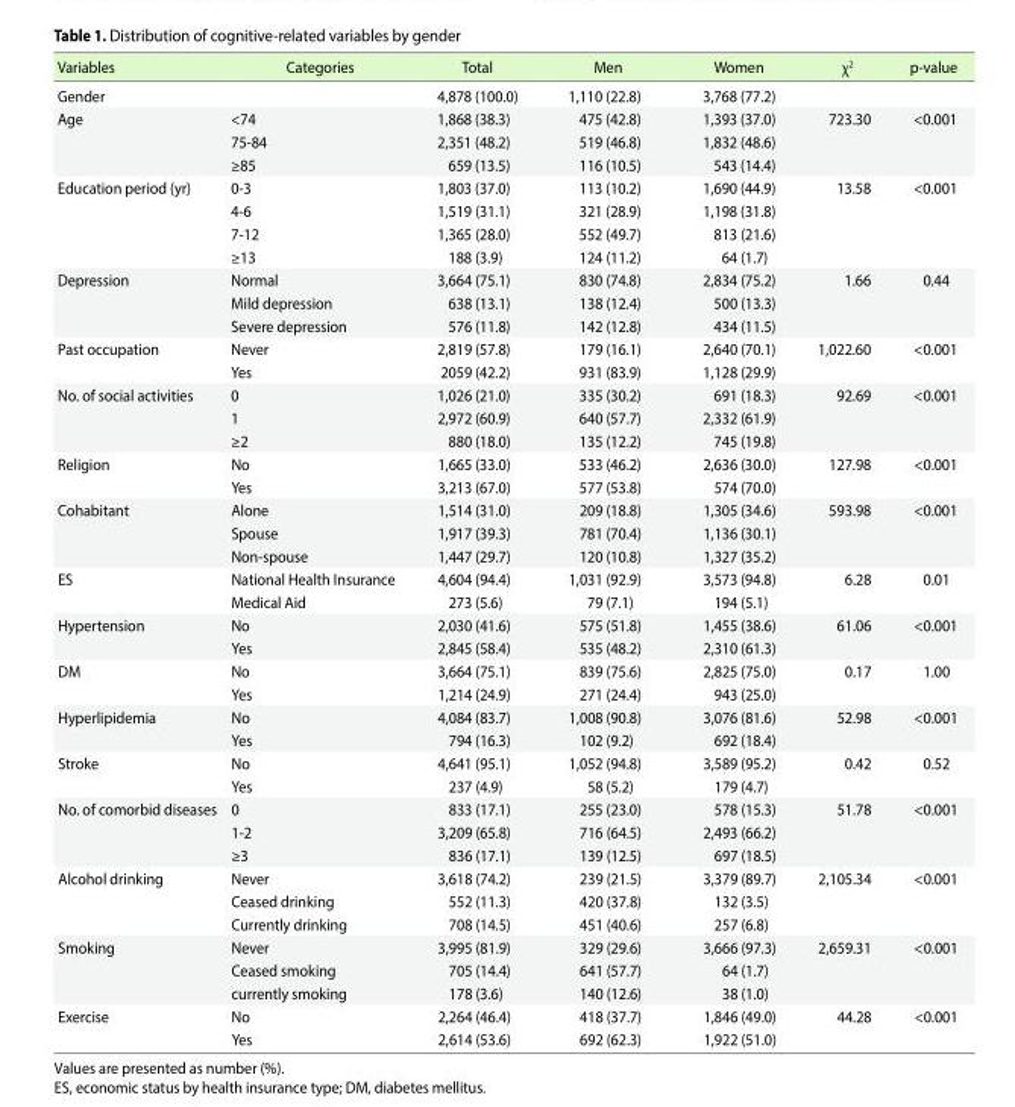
<table><thead><tr><td>Variables</td><td>Categories</td><td>Total</td><td>Men</td><td>Women</td><td>χ<sup>2</sup></td><td>p-value</td></tr></thead><tbody><tr><td>Gender</td><td></td><td>4,878 (100.0)</td><td>1,110 (22.8)</td><td>3,768 (77.2)</td><td></td><td></td></tr><tr><td rowspan="3">Age</td><td>&lt;74</td><td>1,868 (38.3)</td><td>475 (42.8)</td><td>1,393 (37.0)</td><td>723.30</td><td>&lt;0.001</td></tr><tr><td>75-84</td><td>2,351 (48.2)</td><td>519 (46.8)</td><td>1,832 (48.6)</td><td></td><td></td></tr><tr><td>≥85</td><td>659 (13.5)</td><td>116 (10.5)</td><td>543 (14.4)</td><td></td><td></td></tr><tr><td rowspan="4">Education period (yr)</td><td>0-3</td><td>1,803 (37.0)</td><td>113 (10.2)</td><td>1,690 (44.9)</td><td>13.58</td><td>&lt;0.001</td></tr><tr><td>4-6</td><td>1,519 (31.1)</td><td>321 (28.9)</td><td>1,198 (31.8)</td><td></td><td></td></tr><tr><td>7-12</td><td>1,365 (28.0)</td><td>552 (49.7)</td><td>813 (21.6)</td><td></td><td></td></tr><tr><td>≥13</td><td>188 (3.9)</td><td>124 (11.2)</td><td>64 (1.7)</td><td></td><td></td></tr><tr><td rowspan="3">Depression</td><td>Normal</td><td>3,664 (75.1)</td><td>830 (74.8)</td><td>2,834 (75.2)</td><td>1.66</td><td>0.44</td></tr><tr><td>Mild depression</td><td>638 (13.1)</td><td>138 (12.4)</td><td>500 (13.3)</td><td></td><td></td></tr><tr><td>Severe depression</td><td>576 (11.8)</td><td>142 (12.8)</td><td>434 (11.5)</td><td></td><td></td></tr><tr><td rowspan="2">Past occupation</td><td>Never</td><td>2,819 (57.8)</td><td>179 (16.1)</td><td>2,640 (70.1)</td><td>1,022.60</td><td>&lt;0.001</td></tr><tr><td>Yes</td><td>2059 (42.2)</td><td>931 (83.9)</td><td>1,128 (29.9)</td><td></td><td></td></tr><tr><td rowspan="3">No. of social activities</td><td>0</td><td>1,026 (21.0)</td><td>335 (30.2)</td><td>691 (18.3)</td><td>92.69</td><td>&lt;0.001</td></tr><tr><td>1</td><td>2,972 (60.9)</td><td>640 (57.7)</td><td>2,332 (61.9)</td><td></td><td></td></tr><tr><td>≥2</td><td>880 (18.0)</td><td>135 (12.2)</td><td>745 (19.8)</td><td></td><td></td></tr><tr><td rowspan="2">Religion</td><td>No</td><td>1,665 (33.0)</td><td>533 (46.2)</td><td>2,636 (30.0)</td><td>127.98</td><td>&lt;0.001</td></tr><tr><td>Yes</td><td>3,213 (67.0)</td><td>577 (53.8)</td><td>574 (70.0)</td><td></td><td></td></tr><tr><td rowspan="3">Cohabitant</td><td>Alone</td><td>1,514 (31.0)</td><td>209 (18.8)</td><td>1,305 (34.6)</td><td>593.98</td><td>&lt;0.001</td></tr><tr><td>Spouse</td><td>1,917 (39.3)</td><td>781 (70.4)</td><td>1,136 (30.1)</td><td></td><td></td></tr><tr><td>Non-spouse</td><td>1,447 (29.7)</td><td>120 (10.8)</td><td>1,327 (35.2)</td><td></td><td></td></tr><tr><td rowspan="2">ES</td><td>National Health Insurance</td><td>4,604 (94.4)</td><td>1,031 (92.9)</td><td>3,573 (94.8)</td><td>6.28</td><td>0.01</td></tr><tr><td>Medical Aid</td><td>273 (5.6)</td><td>79 (7.1)</td><td>194 (5.1)</td><td></td><td></td></tr><tr><td rowspan="2">Hypertension</td><td>No</td><td>2,030 (41.6)</td><td>575 (51.8)</td><td>1,455 (38.6)</td><td>61.06</td><td>&lt;0.001</td></tr><tr><td>Yes</td><td>2,845 (58.4)</td><td>535 (48.2)</td><td>2,310 (61.3)</td><td></td><td></td></tr><tr><td rowspan="2">DM</td><td>No</td><td>3,664 (75.1)</td><td>839 (75.6)</td><td>2,825 (75.0)</td><td>0.17</td><td>1.00</td></tr><tr><td>Yes</td><td>1,214 (24.9)</td><td>271 (24.4)</td><td>943 (25.0)</td><td></td><td></td></tr><tr><td rowspan="2">Hyperlipidemia</td><td>No</td><td>4,084 (83.7)</td><td>1,008 (90.8)</td><td>3,076 (81.6)</td><td>52.98</td><td>&lt;0.001</td></tr><tr><td>Yes</td><td>794 (16.3)</td><td>102 (9.2)</td><td>692 (18.4)</td><td></td><td></td></tr><tr><td rowspan="2">Stroke</td><td>No</td><td>4,641 (95.1)</td><td>1,052 (94.8)</td><td>3,589 (95.2)</td><td>0.42</td><td>0.52</td></tr><tr><td>Yes</td><td>237 (4.9)</td><td>58 (5.2)</td><td>179 (4.7)</td><td></td><td></td></tr><tr><td rowspan="3">No. of comorbid diseases</td><td>0</td><td>833 (17.1)</td><td>255 (23.0)</td><td>578 (15.3)</td><td>51.78</td><td>&lt;0.001</td></tr><tr><td>1-2</td><td>3,209 (65.8)</td><td>716 (64.5)</td><td>2,493 (66.2)</td><td></td><td></td></tr><tr><td>≥3</td><td>836 (17.1)</td><td>139 (12.5)</td><td>697 (18.5)</td><td></td><td></td></tr><tr><td rowspan="3">Alcohol drinking</td><td>Never</td><td>3,618 (74.2)</td><td>239 (21.5)</td><td>3,379 (89.7)</td><td>2,105.34</td><td>&lt;0.001</td></tr><tr><td>Ceased drinking</td><td>552 (11.3)</td><td>420 (37.8)</td><td>132 (3.5)</td><td></td><td></td></tr><tr><td>Currently drinking</td><td>708 (14.5)</td><td>451 (40.6)</td><td>257 (6.8)</td><td></td><td></td></tr><tr><td rowspan="3">Smoking</td><td>Never</td><td>3,995 (81.9)</td><td>329 (29.6)</td><td>3,666 (97.3)</td><td>2,659.31</td><td>&lt;0.001</td></tr><tr><td>Ceased smoking</td><td>705 (14.4)</td><td>641 (57.7)</td><td>64 (1.7)</td><td></td><td></td></tr><tr><td>currently smoking</td><td>178 (3.6)</td><td>140 (12.6)</td><td>38 (1.0)</td><td></td><td></td></tr><tr><td rowspan="2">Exercise</td><td>No</td><td>2,264 (46.4)</td><td>418 (37.7)</td><td>1,846 (49.0)</td><td>44.28</td><td>&lt;0.001</td></tr><tr><td>Yes</td><td>2,614 (53.6)</td><td>692 (62.3)</td><td>1,922 (51.0)</td><td></td><td></td></tr></tbody></table>